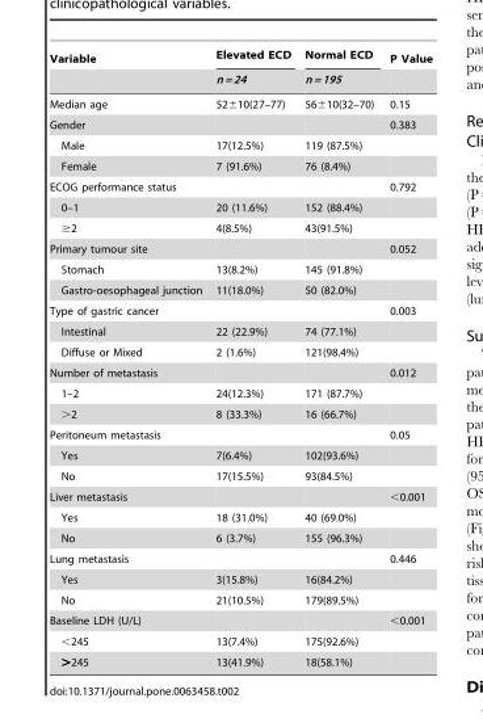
<table><thead><tr><td rowspan="2">Variable</td><td rowspan="2">Elevated ECD n = 24</td><td rowspan="2">Normal ECD n = 195</td><td rowspan="2">P Value</td></tr><tr></tr></thead><tbody><tr><td>Median age</td><td>52±10(27–77)</td><td>56±10(32–70)</td><td>0.15</td></tr><tr><td>Gender</td><td></td><td></td><td>0.383</td></tr><tr><td>Male</td><td>17(12.5%)</td><td>119 (87.5%)</td><td></td></tr><tr><td>Female</td><td>7 (91.6%)</td><td>76 (8.4%)</td><td></td></tr><tr><td>ECOG performance status</td><td></td><td></td><td>0.792</td></tr><tr><td>0–1</td><td>20 (11.6%)</td><td>152 (88.4%)</td><td></td></tr><tr><td>≥2</td><td>4(8.5%)</td><td>43(91.5%)</td><td></td></tr><tr><td>Primary tumour site</td><td></td><td></td><td>0.052</td></tr><tr><td>Stomach</td><td>13(8.2%)</td><td>145 (91.8%)</td><td></td></tr><tr><td>Gastro-oesophageal junction</td><td>11(18.0%)</td><td>50 (82.0%)</td><td></td></tr><tr><td>Type of gastric cancer</td><td></td><td></td><td>0.003</td></tr><tr><td>Intestinal</td><td>22 (22.9%)</td><td>74 (77.1%)</td><td></td></tr><tr><td>Diffuse or Mixed</td><td>2 (1.6%)</td><td>121(98.4%)</td><td></td></tr><tr><td>Number of metastasis</td><td></td><td></td><td>0.012</td></tr><tr><td>1–2</td><td>24(12.3%)</td><td>171 (87.7%)</td><td></td></tr><tr><td>&gt;2</td><td>8 (33.3%)</td><td>16 (66.7%)</td><td></td></tr><tr><td>Peritoneum metastasis</td><td></td><td></td><td>0.05</td></tr><tr><td>Yes</td><td>7(6.4%)</td><td>102(93.6%)</td><td></td></tr><tr><td>No</td><td>17(15.5%)</td><td>93(84.5%)</td><td></td></tr><tr><td>Liver metastasis</td><td></td><td></td><td>&lt;0.001</td></tr><tr><td>Yes</td><td>18 (31.0%)</td><td>40 (69.0%)</td><td></td></tr><tr><td>No</td><td>6 (3.7%)</td><td>155 (96.3%)</td><td></td></tr><tr><td>Lung metastasis</td><td></td><td></td><td>0.446</td></tr><tr><td>Yes</td><td>3(15.8%)</td><td>16(84.2%)</td><td></td></tr><tr><td>No</td><td>21(10.5%)</td><td>179(89.5%)</td><td></td></tr><tr><td>Baseline LDH (U/L)</td><td></td><td></td><td>&lt;0.001</td></tr><tr><td>&lt;245</td><td>13(7.4%)</td><td>175(92.6%)</td><td></td></tr><tr><td>&gt;245</td><td>13(41.9%)</td><td>18(58.1%)</td><td></td></tr></tbody></table>